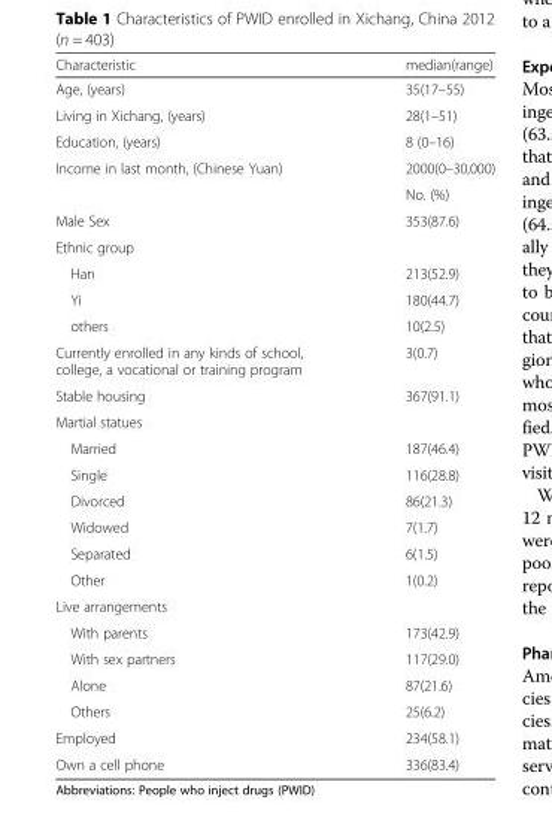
<table><thead><tr><td>Characteristic</td><td>median(range)</td></tr></thead><tbody><tr><td>Age, (years)</td><td>35(17–55)</td></tr><tr><td>Living in Xichang, (years)</td><td>28(1–51)</td></tr><tr><td>Education, (years)</td><td>8 (0–16)</td></tr><tr><td rowspan="2">Income in last month, (Chinese Yuan)</td><td>2000(0–30,000)</td></tr><tr><td>No. (%)</td></tr><tr><td>Male Sex</td><td>353(87.6)</td></tr><tr><td colspan="2">Ethnic group</td></tr><tr><td>Han</td><td>213(52.9)</td></tr><tr><td>Yi</td><td>180(44.7)</td></tr><tr><td>others</td><td>10(2.5)</td></tr><tr><td>Currently enrolled in any kinds of school, college, a vocational or training program</td><td>3(0.7)</td></tr><tr><td>Stable housing</td><td>367(91.1)</td></tr><tr><td colspan="2">Martial statues</td></tr><tr><td>Married</td><td>187(46.4)</td></tr><tr><td>Single</td><td>116(28.8)</td></tr><tr><td>Divorced</td><td>86(21.3)</td></tr><tr><td>Widowed</td><td>7(1.7)</td></tr><tr><td>Separated</td><td>6(1.5)</td></tr><tr><td>Other</td><td>1(0.2)</td></tr><tr><td colspan="2">Live arrangements</td></tr><tr><td>With parents</td><td>173(42.9)</td></tr><tr><td>With sex partners</td><td>117(29.0)</td></tr><tr><td>Alone</td><td>87(21.6)</td></tr><tr><td>Others</td><td>25(6.2)</td></tr><tr><td>Employed</td><td>234(58.1)</td></tr><tr><td>Own a cell phone</td><td>336(83.4)</td></tr></tbody></table>